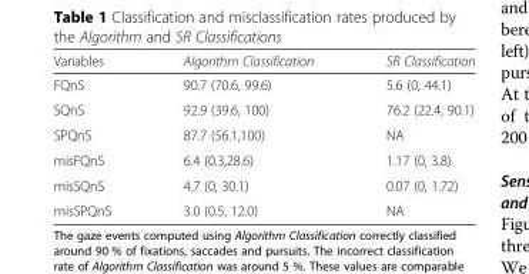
<table><thead><tr><td>Variables</td><td>Algorithm Classification</td><td>SR Classification</td></tr></thead><tbody><tr><td>FQnS</td><td>90.7 (70.6, 99.6)</td><td>5.6 (0, 44.1)</td></tr><tr><td>SQnS</td><td>92.9 (39.6, 100)</td><td>76.2 (22.4, 90.1)</td></tr><tr><td>SPQnS</td><td>87.7 (56.1,100)</td><td>NA</td></tr><tr><td>misFQnS</td><td>6.4 (0.3,28.6)</td><td>1.17 (0, 3.8)</td></tr><tr><td>misSQnS</td><td>4.7 (0, 30.1)</td><td>0.07 (0, 1.72)</td></tr><tr><td>misSPQnS</td><td>3.0 (0.5, 12.0)</td><td>NA</td></tr></tbody></table>